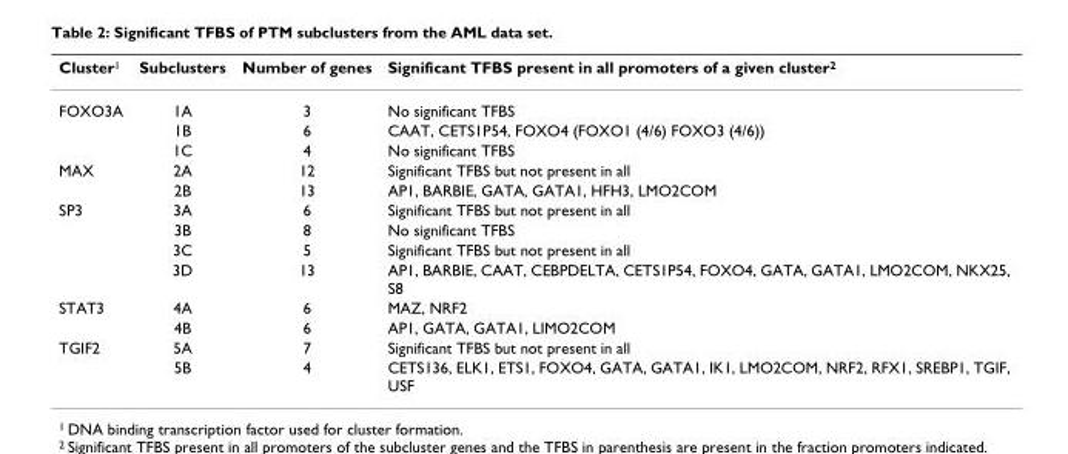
<table><thead><tr><td>Cluster1</td><td>Subclusters</td><td>Number of genes</td><td>Significant TFBS present in all promoters of a given cluster2</td></tr></thead><tbody><tr><td rowspan="3">FOXO3A</td><td>1A</td><td>3</td><td>No significant TFBS</td></tr><tr><td>1B</td><td>6</td><td>CAAT, CETS1P54, FOXO4 (FOXO1 (4/6) FOXO3 (4/6))</td></tr><tr><td>1C</td><td>4</td><td>No significant TFBS</td></tr><tr><td rowspan="2">MAX</td><td>2A</td><td>12</td><td>Significant TFBS but not present in all</td></tr><tr><td>2B</td><td>13</td><td>AP1, BARBIE, GATA, GATA1, HFH3, LMO2COM</td></tr><tr><td rowspan="4">SP3</td><td>3A</td><td>6</td><td>Significant TFBS but not present in all</td></tr><tr><td>3B</td><td>8</td><td>No significant TFBS</td></tr><tr><td>3C</td><td>5</td><td>Significant TFBS but not present in all</td></tr><tr><td>3D</td><td>13</td><td>AP1, BARBIE, CAAT, CEBPDELTA, CETS1P54, FOXO4, GATA, GATA1, LMO2COM, NKX25, S8</td></tr><tr><td rowspan="2">STAT3</td><td>4A</td><td>6</td><td>MAZ, NRF2</td></tr><tr><td>4B</td><td>6</td><td>AP1, GATA, GATA1, LIMO2COM</td></tr><tr><td rowspan="2">TGIF2</td><td>5A</td><td>7</td><td>Significant TFBS but not present in all</td></tr><tr><td>5B</td><td>4</td><td>CETS136, ELK1, ETS1, FOXO4, GATA, GATA1, IK1, LMO2COM, NRF2, RFX1, SREBP1, TGIF, USF</td></tr></tbody></table>